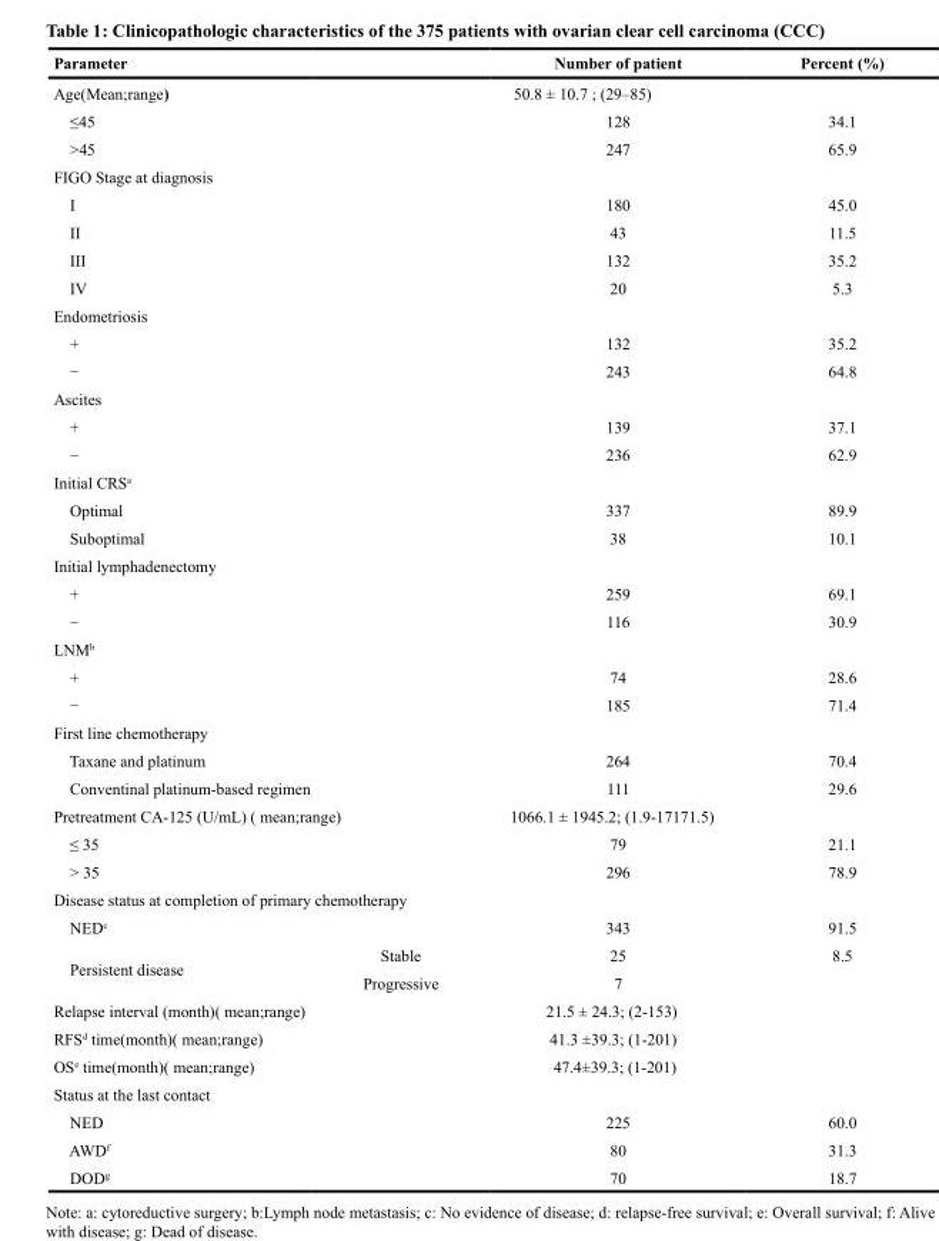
<table><thead><tr><td colspan="2">Parameter</td><td>Number of patient</td><td>Percent (%)</td></tr></thead><tbody><tr><td colspan="2">Age(Mean;range)</td><td>50.8 ± 10.7 ; (29–85)</td><td></td></tr><tr><td colspan="2">≤45</td><td>128</td><td>34.1</td></tr><tr><td colspan="2">&gt;45</td><td>247</td><td>65.9</td></tr><tr><td colspan="4">FIGO Stage at diagnosis</td></tr><tr><td colspan="2">I</td><td>180</td><td>45.0</td></tr><tr><td colspan="2">II</td><td>43</td><td>11.5</td></tr><tr><td colspan="2">III</td><td>132</td><td>35.2</td></tr><tr><td colspan="2">IV</td><td>20</td><td>5.3</td></tr><tr><td colspan="4">Endometriosis</td></tr><tr><td colspan="2">+</td><td>132</td><td>35.2</td></tr><tr><td colspan="2">−</td><td>243</td><td>64.8</td></tr><tr><td colspan="4">Ascites</td></tr><tr><td colspan="2">+</td><td>139</td><td>37.1</td></tr><tr><td colspan="2">−</td><td>236</td><td>62.9</td></tr><tr><td colspan="4">Initial CRS<sup>a</sup></td></tr><tr><td colspan="2">Optimal</td><td>337</td><td>89.9</td></tr><tr><td colspan="2">Suboptimal</td><td>38</td><td>10.1</td></tr><tr><td colspan="4">Initial lymphadenectomy</td></tr><tr><td colspan="2">+</td><td>259</td><td>69.1</td></tr><tr><td colspan="2">−</td><td>116</td><td>30.9</td></tr><tr><td colspan="4">LNM<sup>b</sup></td></tr><tr><td colspan="2">+</td><td>74</td><td>28.6</td></tr><tr><td colspan="2">−</td><td>185</td><td>71.4</td></tr><tr><td colspan="4">First line chemotherapy</td></tr><tr><td colspan="2">Taxane and platinum</td><td>264</td><td>70.4</td></tr><tr><td colspan="2">Conventinal platinum-based regimen</td><td>111</td><td>29.6</td></tr><tr><td colspan="2">Pretreatment CA-125 (U/mL) ( mean;range)</td><td>1066.1 ± 1945.2; (1.9-17171.5)</td><td></td></tr><tr><td colspan="2">≤ 35</td><td>79</td><td>21.1</td></tr><tr><td colspan="2">&gt; 35</td><td>296</td><td>78.9</td></tr><tr><td colspan="4">Disease status at completion of primary chemotherapy</td></tr><tr><td colspan="2">NED<sup>c</sup></td><td>343</td><td>91.5</td></tr><tr><td rowspan="2">Persistent disease</td><td>Stable</td><td>25</td><td>8.5</td></tr><tr><td>Progressive</td><td>7</td><td></td></tr><tr><td colspan="2">Relapse interval (month)( mean;range)</td><td>21.5 ± 24.3; (2-153)</td><td></td></tr><tr><td colspan="2">RFS<sup>d</sup> time(month)( mean;range)</td><td>41.3 ±39.3; (1-201)</td><td></td></tr><tr><td colspan="2">OS<sup>e</sup> time(month)( mean;range)</td><td>47.4±39.3; (1-201)</td><td></td></tr><tr><td colspan="4">Status at the last contact</td></tr><tr><td colspan="2">NED</td><td>225</td><td>60.0</td></tr><tr><td colspan="2">AWD<sup>f</sup></td><td>80</td><td>31.3</td></tr><tr><td colspan="2">DOD<sup>g</sup></td><td>70</td><td>18.7</td></tr></tbody></table>